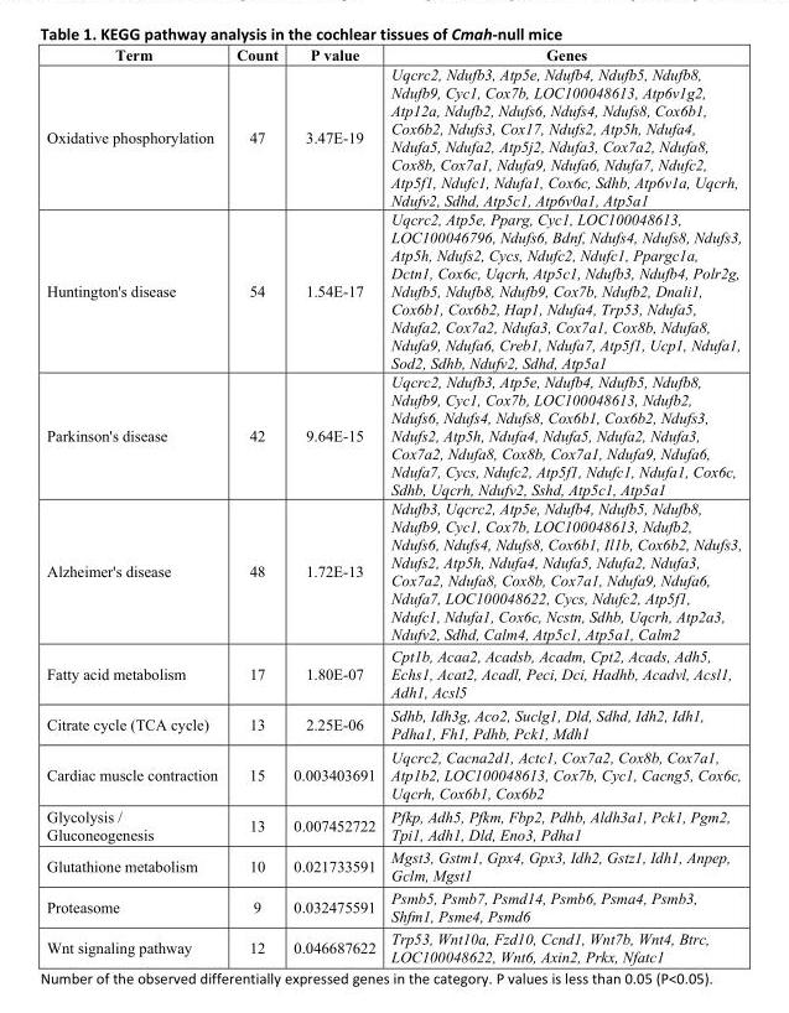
<table><thead><tr><td>Term</td><td>Count</td><td>P value</td><td>Genes</td></tr></thead><tbody><tr><td>Oxidative phosphorylation</td><td>47</td><td>3.47E-19</td><td>Uqcrc2, Ndufb3, Atp5e, Ndufb4, Ndufb5, Ndufb8, Ndufb9, Cyc1, Cox7b, LOC100048613, Atp6v1g2, Atp12a, Ndufb2, Ndufs6, Ndufs4, Ndufs8, Cox6b1, Cox6b2, Ndufs3, Cox17, Ndufs2, Atp5h, Ndufa4, Ndufa5, Ndufa2, Atp5j2, Ndufa3, Cox7a2, Ndufa8, Cox8b, Cox7a1, Ndufa9, Ndufa6, Ndufa7, Ndufc2, Atp5f1, Ndufc1, Ndufa1, Cox6c, Sdhb, Atp6v1a, Uqcrh, Ndufv2, Sdhd, Atp5c1, Atp6v0a1, Atp5a1</td></tr><tr><td>Huntington&#x27;s disease</td><td>54</td><td>1.54E-17</td><td>Uqcrc2, Atp5e, Pparg, Cyc1, LOC100048613, LOC100046796, Ndufs6, Bdnf, Ndufs4, Ndufs8, Ndufs3, Atp5h, Ndufs2, Cycs, Ndufc2, Ndufc1, Ppargc1a, Dctn1, Cox6c, Uqcrh, Atp5c1, Ndufb3, Ndufb4, Polr2g, Ndufb5, Ndufb8, Ndufb9, Cox7b, Ndufb2, Dnali1, Cox6b1, Cox6b2, Hap1, Ndufa4, Trp53, Ndufa5, Ndufa2, Cox7a2, Ndufa3, Cox7a1, Cox8b, Ndufa8, Ndufa9, Ndufa6, Creb1, Ndufa7, Atp5f1, Ucp1, Ndufa1, Sod2, Sdhb, Ndufv2, Sdhd, Atp5a1</td></tr><tr><td>Parkinson&#x27;s disease</td><td>42</td><td>9.64E-15</td><td>Uqcrc2, Ndufb3, Atp5e, Ndufb4, Ndufb5, Ndufb8, Ndufb9, Cyc1, Cox7b, LOC100048613, Ndufb2, Ndufs6, Ndufs4, Ndufs8, Cox6b1, Cox6b2, Ndufs3, Ndufs2, Atp5h, Ndufa4, Ndufa5, Ndufa2, Ndufa3, Cox7a2, Ndufa8, Cox8b, Cox7a1, Ndufa9, Ndufa6, Ndufa7, Cycs, Ndufc2, Atp5f1, Ndufc1, Ndufa1, Cox6c, Sdhb, Uqcrh, Ndufv2, Sshd, Atp5c1, Atp5a1</td></tr><tr><td>Alzheimer&#x27;s disease</td><td>48</td><td>1.72E-13</td><td>Ndufb3, Uqcrc2, Atp5e, Ndufb4, Ndufb5, Ndufb8, Ndufb9, Cyc1, Cox7b, LOC100048613, Ndufb2, Ndufs6, Ndufs4, Ndufs8, Cox6b1, Il1b, Cox6b2, Ndufs3, Ndufs2, Atp5h, Ndufa4, Ndufa5, Ndufa2, Ndufa3, Cox7a2, Ndufa8, Cox8b, Cox7a1, Ndufa9, Ndufa6, Ndufa7, LOC100048622, Cycs, Ndufc2, Atp5f1, Ndufc1, Ndufa1, Cox6c, Ncstn, Sdhb, Uqcrh, Atp2a3, Ndufv2, Sdhd, Calm4, Atp5c1, Atp5a1, Calm2</td></tr><tr><td>Fatty acid metabolism</td><td>17</td><td>1.80E-07</td><td>Cpt1b, Acaa2, Acadsb, Acadm, Cpt2, Acads, Adh5, Echs1, Acat2, Acadl, Peci, Dci, Hadhb, Acadvl, Acsl1, Adh1, Acsl5</td></tr><tr><td>Citrate cycle (TCA cycle)</td><td>13</td><td>2.25E-06</td><td>Sdhb, Idh3g, Aco2, Suclg1, Dld, Sdhd, Idh2, Idh1, Pdha1, Fh1, Pdhb, Pck1, Mdh1</td></tr><tr><td>Cardiac muscle contraction</td><td>15</td><td>0.003403691</td><td>Uqcrc2, Cacna2d1, Actc1, Cox7a2, Cox8b, Cox7a1, Atp1b2, LOC100048613, Cox7b, Cyc1, Cacng5, Cox6c, Uqcrh, Cox6b1, Cox6b2</td></tr><tr><td>Glycolysis / Gluconeogenesis</td><td>13</td><td>0.007452722</td><td>Pfkp, Adh5, Pfkm, Fbp2, Pdhb, Aldh3a1, Pck1, Pgm2, Tpi1, Adh1, Dld, Eno3, Pdha1</td></tr><tr><td>Glutathione metabolism</td><td>10</td><td>0.021733591</td><td>Mgst3, Gstm1, Gpx4, Gpx3, Idh2, Gstz1, Idh1, Anpep, Gclm, Mgst1</td></tr><tr><td>Proteasome</td><td>9</td><td>0.032475591</td><td>Psmb5, Psmb7, Psmd14, Psmb6, Psma4, Psmb3, Shfm1, Psme4, Psmd6</td></tr><tr><td>Wnt signaling pathway</td><td>12</td><td>0.046687622</td><td>Trp53, Wnt10a, Fzd10, Ccnd1, Wnt7b, Wnt4, Btrc, LOC100048622, Wnt6, Axin2, Prkx, Nfatc1</td></tr></tbody></table>